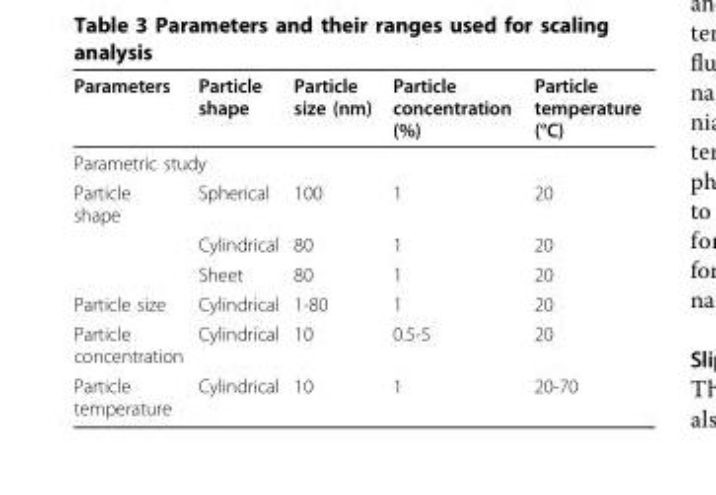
<table><thead><tr><td>Parameters</td><td>Particle shape</td><td>Particle size (nm)</td><td>Particle concentration (%)</td><td>Particle temperature (°C)</td></tr></thead><tbody><tr><td colspan="5">Parametric study</td></tr><tr><td rowspan="3">Particle shape</td><td>Spherical</td><td>100</td><td>1</td><td>20</td></tr><tr><td>Cylindrical</td><td>80</td><td>1</td><td>20</td></tr><tr><td>Sheet</td><td>80</td><td>1</td><td>20</td></tr><tr><td>Particle size</td><td>Cylindrical</td><td>1-80</td><td>1</td><td>20</td></tr><tr><td>Particle concentration</td><td>Cylindrical</td><td>10</td><td>0.5-5</td><td>20</td></tr><tr><td>Particle temperature</td><td>Cylindrical</td><td>10</td><td>1</td><td>20-70</td></tr></tbody></table>